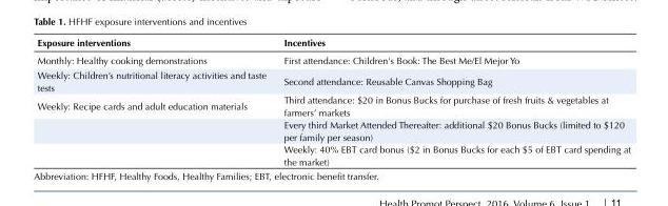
<table><tbody><tr><td>Exposure interventions</td><td>Incentives</td></tr><tr><td>Monthly: Healthy cooking demonstrations</td><td>First attendance: Children&#x27;s Book: The Best Me/El Mejor Yo</td></tr><tr><td>Weekly: Children’s nutritional literacy activities and taste tests</td><td>Second attendance: Reusable Canvas Shopping Bag</td></tr><tr><td rowspan="3">Weekly: Recipe cards and adult education materials</td><td>Third attendance: $20 in Bonus Bucks for purchase of fresh fruits &amp; vegetables at farmers’ markets</td></tr><tr><td>Every third Market Attended Thereafter: additional $20 Bonus Bucks (limited to $120 per family per season)</td></tr><tr><td>Weekly: 40% EBT card bonus ($2 in Bonus Bucks for each $5 of EBT card spending at the market)</td></tr></tbody></table>